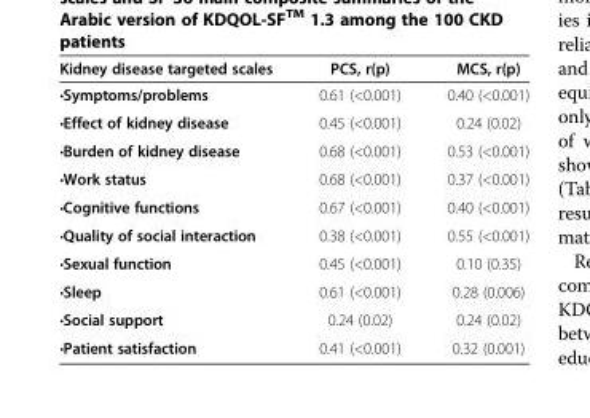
<table><thead><tr><td>Kidney disease targeted scales</td><td>PCS, r(p)</td><td>MCS, r(p)</td></tr></thead><tbody><tr><td>•Symptoms/problems</td><td>0.61 (&lt;0.001)</td><td>0.40 (&lt;0.001)</td></tr><tr><td>•Effect of kidney disease</td><td>0.45 (&lt;0.001)</td><td>0.24 (0.02)</td></tr><tr><td>•Burden of kidney disease</td><td>0.68 (&lt;0.001)</td><td>0.53 (&lt;0.001)</td></tr><tr><td>•Work status</td><td>0.68 (&lt;0.001)</td><td>0.37 (&lt;0.001)</td></tr><tr><td>•Cognitive functions</td><td>0.67 (&lt;0.001)</td><td>0.40 (&lt;0.001)</td></tr><tr><td>•Quality of social interaction</td><td>0.38 (&lt;0.001)</td><td>0.55 (&lt;0.001)</td></tr><tr><td>•Sexual function</td><td>0.45 (&lt;0.001)</td><td>0.10 (0.35)</td></tr><tr><td>•Sleep</td><td>0.61 (&lt;0.001)</td><td>0.28 (0.006)</td></tr><tr><td>•Social support</td><td>0.24 (0.02)</td><td>0.24 (0.02)</td></tr><tr><td>•Patient satisfaction</td><td>0.41 (&lt;0.001)</td><td>0.32 (0.001)</td></tr></tbody></table>